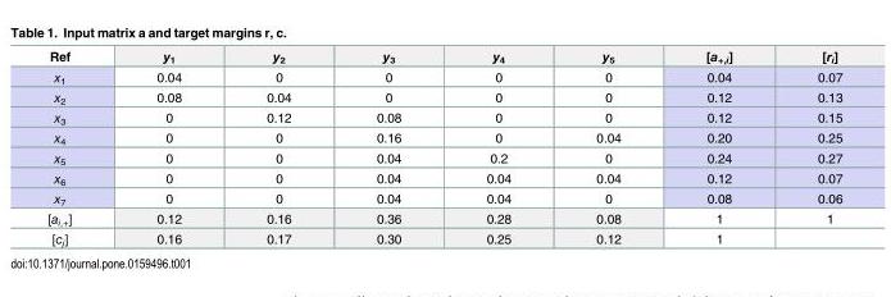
<table><thead><tr><td>Ref</td><td>y<sub>1</sub></td><td>y<sub>2</sub></td><td>y<sub>3</sub></td><td>y<sub>4</sub></td><td>y<sub>5</sub></td><td>[a<sub>+,i</sub>]</td><td>[r<sub>i</sub>]</td></tr></thead><tbody><tr><td>x<sub>1</sub></td><td>0.04</td><td>0</td><td>0</td><td>0</td><td>0</td><td>0.04</td><td>0.07</td></tr><tr><td>x<sub>2</sub></td><td>0.08</td><td>0.04</td><td>0</td><td>0</td><td>0</td><td>0.12</td><td>0.13</td></tr><tr><td>x<sub>3</sub></td><td>0</td><td>0.12</td><td>0.08</td><td>0</td><td>0</td><td>0.12</td><td>0.15</td></tr><tr><td>x<sub>4</sub></td><td>0</td><td>0</td><td>0.16</td><td>0</td><td>0.04</td><td>0.20</td><td>0.25</td></tr><tr><td>x<sub>5</sub></td><td>0</td><td>0</td><td>0.04</td><td>0.2</td><td>0</td><td>0.24</td><td>0.27</td></tr><tr><td>x<sub>6</sub></td><td>0</td><td>0</td><td>0.04</td><td>0.04</td><td>0.04</td><td>0.12</td><td>0.07</td></tr><tr><td>x<sub>7</sub></td><td>0</td><td>0</td><td>0.04</td><td>0.04</td><td>0</td><td>0.08</td><td>0.06</td></tr><tr><td>[a<sub>i,+</sub>]</td><td>0.12</td><td>0.16</td><td>0.36</td><td>0.28</td><td>0.08</td><td>1</td><td>1</td></tr><tr><td>[c<sub>j</sub>]</td><td>0.16</td><td>0.17</td><td>0.30</td><td>0.25</td><td>0.12</td><td>1</td><td></td></tr></tbody></table>